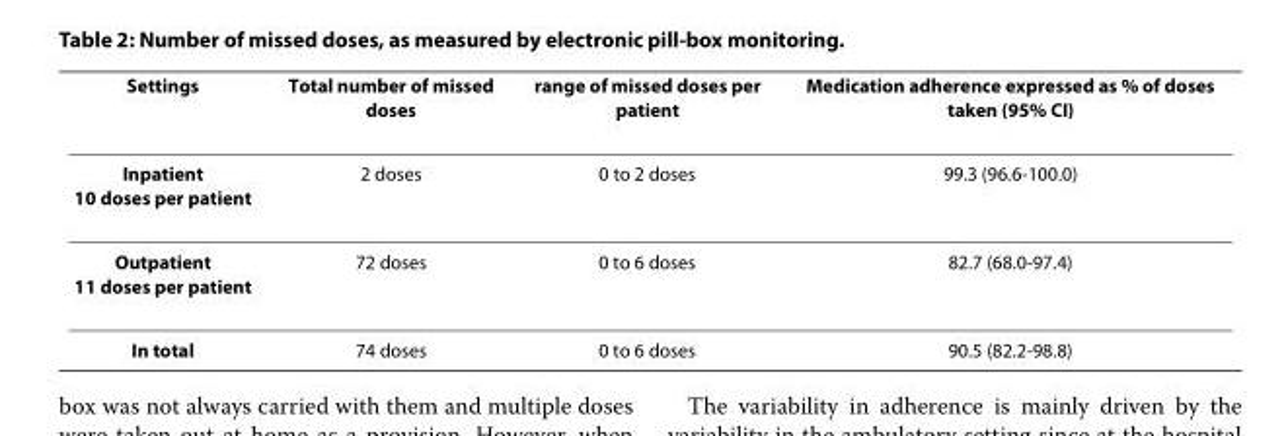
<table><thead><tr><td>Settings</td><td>Total number of missed doses</td><td>range of missed doses per patient</td><td>Medication adherence expressed as % of doses taken (95% CI)</td></tr></thead><tbody><tr><td>Inpatient 10 doses per patient</td><td>2 doses</td><td>0 to 2 doses</td><td>99.3 (96.6-100.0)</td></tr><tr><td>Outpatient 11 doses per patient</td><td>72 doses</td><td>0 to 6 doses</td><td>82.7 (68.0-97.4)</td></tr><tr><td>In total</td><td>74 doses</td><td>0 to 6 doses</td><td>90.5 (82.2-98.8)</td></tr></tbody></table>